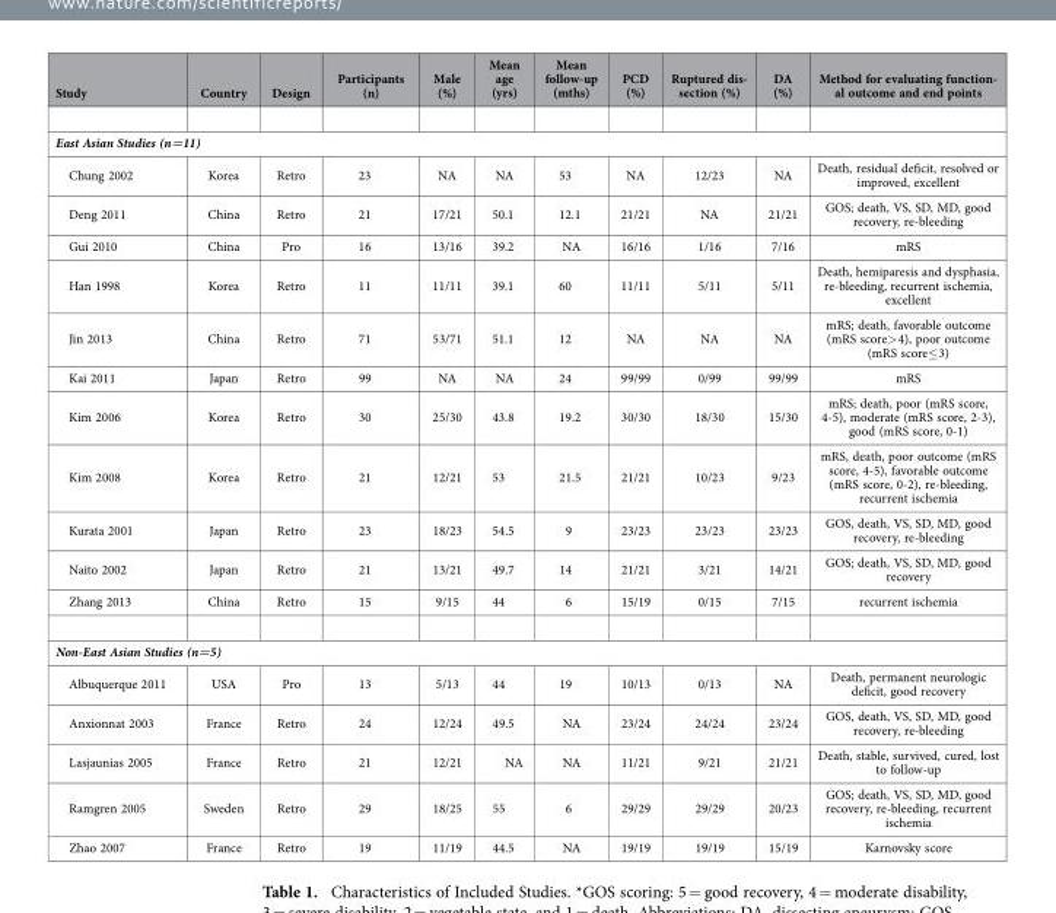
<table><thead><tr><td>Study</td><td>Country</td><td>Design</td><td>Participants (n)</td><td>Male (%)</td><td>Mean age (yrs)</td><td>Mean follow-up (mths)</td><td>PCD (%)</td><td>Ruptured dis- section (%)</td><td>DA (%)</td><td>Method for evaluating function- al outcome and end points</td></tr></thead><tbody><tr><td colspan="11">East Asian Studies (n=11)</td></tr><tr><td>Chung 2002</td><td>Korea</td><td>Retro</td><td>23</td><td>NA</td><td>NA</td><td>53</td><td>NA</td><td>12/23</td><td>NA</td><td>Death, residual deficit, resolved or improved, excellent</td></tr><tr><td>Deng 2011</td><td>China</td><td>Retro</td><td>21</td><td>17/21</td><td>50.1</td><td>12.1</td><td>21/21</td><td>NA</td><td>21/21</td><td>GOS; death, VS, SD, MD, good recovery, re-bleeding</td></tr><tr><td>Gui 2010</td><td>China</td><td>Pro</td><td>16</td><td>13/16</td><td>39.2</td><td>NA</td><td>16/16</td><td>1/16</td><td>7/16</td><td>mRS</td></tr><tr><td>Han 1998</td><td>Korea</td><td>Retro</td><td>11</td><td>11/11</td><td>39.1</td><td>60</td><td>11/11</td><td>5/11</td><td>5/11</td><td>Death, hemiparesis and dysphasia, re-bleeding, recurrent ischemia, excellent</td></tr><tr><td>Jin 2013</td><td>China</td><td>Retro</td><td>71</td><td>53/71</td><td>51.1</td><td>12</td><td>NA</td><td>NA</td><td>NA</td><td>mRS; death, favorable outcome (mRS score&gt; 4), poor outcome (mRS score≤ 3)</td></tr><tr><td>Kai 2011</td><td>Japan</td><td>Retro</td><td>99</td><td>NA</td><td>NA</td><td>24</td><td>99/99</td><td>0/99</td><td>99/99</td><td>mRS</td></tr><tr><td>Kim 2006</td><td>Korea</td><td>Retro</td><td>30</td><td>25/30</td><td>43.8</td><td>19.2</td><td>30/30</td><td>18/30</td><td>15/30</td><td>mRS; death, poor (mRS score, 4-5), moderate (mRS score, 2-3), good (mRS score, 0-1)</td></tr><tr><td>Kim 2008</td><td>Korea</td><td>Retro</td><td>21</td><td>12/21</td><td>53</td><td>21.5</td><td>21/21</td><td>10/23</td><td>9/23</td><td>mRS, death, poor outcome (mRS score, 4-5), favorable outcome (mRS score, 0-2), re-bleeding, recurrent ischemia</td></tr><tr><td>Kurata 2001</td><td>Japan</td><td>Retro</td><td>23</td><td>18/23</td><td>54.5</td><td>9</td><td>23/23</td><td>23/23</td><td>23/23</td><td>GOS, death, VS, SD, MD, good recovery, re-bleeding</td></tr><tr><td>Naito 2002</td><td>Japan</td><td>Retro</td><td>21</td><td>13/21</td><td>49.7</td><td>14</td><td>21/21</td><td>3/21</td><td>14/21</td><td>GOS; death, VS, SD, MD, good recovery</td></tr><tr><td>Zhang 2013</td><td>China</td><td>Retro</td><td>15</td><td>9/15</td><td>44</td><td>6</td><td>15/19</td><td>0/15</td><td>7/15</td><td>recurrent ischemia</td></tr><tr><td colspan="11">Non-East Asian Studies (n=5)</td></tr><tr><td>Albuquerque 2011</td><td>USA</td><td>Pro</td><td>13</td><td>5/13</td><td>44</td><td>19</td><td>10/13</td><td>0/13</td><td>NA</td><td>Death, permanent neurologic deficit, good recovery</td></tr><tr><td>Anxionnat 2003</td><td>France</td><td>Retro</td><td>24</td><td>12/24</td><td>49.5</td><td>NA</td><td>23/24</td><td>24/24</td><td>23/24</td><td>GOS, death, VS, SD, MD, good recovery, re-bleeding</td></tr><tr><td>Lasjaunias 2005</td><td>France</td><td>Retro</td><td>21</td><td>12/21</td><td>NA</td><td>NA</td><td>11/21</td><td>9/21</td><td>21/21</td><td>Death, stable, survived, cured, lost to follow-up</td></tr><tr><td>Ramgren 2005</td><td>Sweden</td><td>Retro</td><td>29</td><td>18/25</td><td>55</td><td>6</td><td>29/29</td><td>29/29</td><td>20/23</td><td>GOS; death, VS, SD, MD, good recovery, re-bleeding, recurrent ischemia</td></tr><tr><td>Zhao 2007</td><td>France</td><td>Retro</td><td>19</td><td>11/19</td><td>44.5</td><td>NA</td><td>19/19</td><td>19/19</td><td>15/19</td><td>Karnovsky score</td></tr></tbody></table>